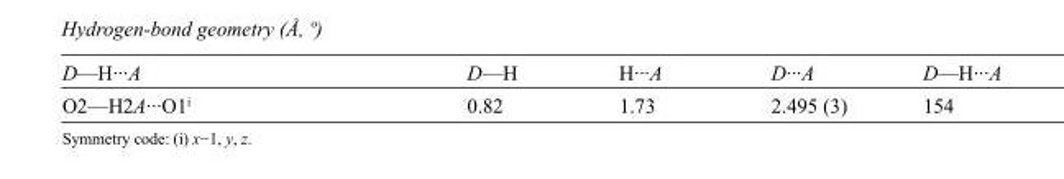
<table><tbody><tr><td>D—H···A</td><td>D—H</td><td>H···A</td><td>D···A</td><td>D—H···A</td></tr><tr><td>O2—H2A···O1<sup>i</sup></td><td>0.82</td><td>1.73</td><td>2.495 (3)</td><td>154</td></tr></tbody></table>